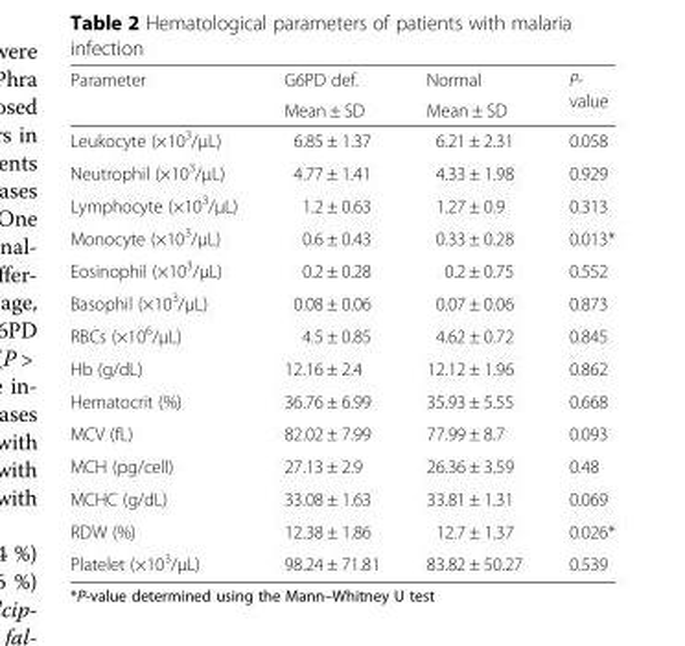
<table><thead><tr><td rowspan="2">Parameter</td><td rowspan="2">G6PD def. Mean ± SD</td><td rowspan="2">Normal Mean ± SD</td><td rowspan="2">P- value</td></tr><tr></tr></thead><tbody><tr><td>Leukocyte (×10<sup>3</sup>/μL)</td><td>6.85 ± 1.37</td><td>6.21 ± 2.31</td><td>0.058</td></tr><tr><td>Neutrophil (×10<sup>3</sup>/μL)</td><td>4.77 ± 1.41</td><td>4.33 ± 1.98</td><td>0.929</td></tr><tr><td>Lymphocyte (×10<sup>3</sup>/μL)</td><td>1.2 ± 0.63</td><td>1.27 ± 0.9</td><td>0.313</td></tr><tr><td>Monocyte (×10<sup>3</sup>/μL)</td><td>0.6 ± 0.43</td><td>0.33 ± 0.28</td><td>0.013*</td></tr><tr><td>Eosinophil (×10<sup>3</sup>/μL)</td><td>0.2 ± 0.28</td><td>0.2 ± 0.75</td><td>0.552</td></tr><tr><td>Basophil (×10<sup>3</sup>/μL)</td><td>0.08 ± 0.06</td><td>0.07 ± 0.06</td><td>0.873</td></tr><tr><td>RBCs (×10<sup>6</sup>/μL)</td><td>4.5 ± 0.85</td><td>4.62 ± 0.72</td><td>0.845</td></tr><tr><td>Hb (g/dL)</td><td>12.16 ± 2.4</td><td>12.12 ± 1.96</td><td>0.862</td></tr><tr><td>Hematocrit (%)</td><td>36.76 ± 6.99</td><td>35.93 ± 5.55</td><td>0.668</td></tr><tr><td>MCV (fL)</td><td>82.02 ± 7.99</td><td>77.99 ± 8.7</td><td>0.093</td></tr><tr><td>MCH (pg/cell)</td><td>27.13 ± 2.9</td><td>26.36 ± 3.59</td><td>0.48</td></tr><tr><td>MCHC (g/dL)</td><td>33.08 ± 1.63</td><td>33.81 ± 1.31</td><td>0.069</td></tr><tr><td>RDW (%)</td><td>12.38 ± 1.86</td><td>12.7 ± 1.37</td><td>0.026*</td></tr><tr><td>Platelet (×10<sup>3</sup>/μL)</td><td>98.24 ± 71.81</td><td>83.82 ± 50.27</td><td>0.539</td></tr></tbody></table>